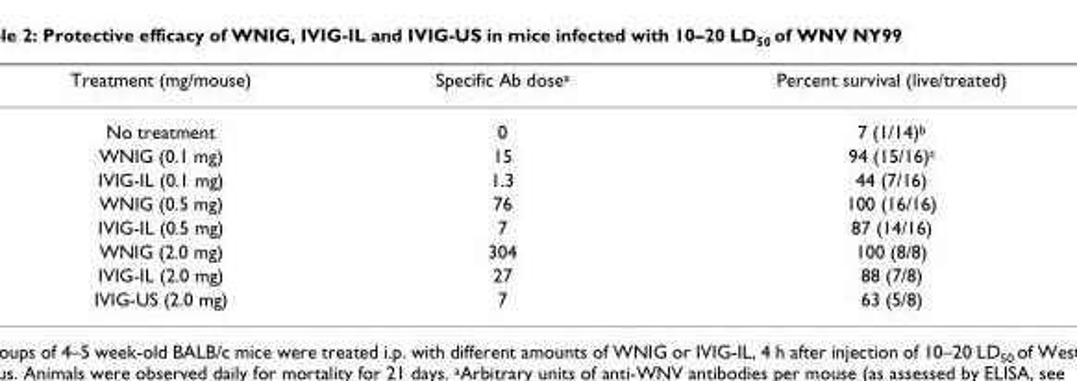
<table><thead><tr><td>Treatment (mg/mouse)</td><td>Specific Ab dose<sup>a</sup></td><td>Percent survival (live/treated)</td></tr></thead><tbody><tr><td>No treatment</td><td>0</td><td>7 (1/14)<sup>b</sup></td></tr><tr><td>WNIG (0.1 mg)</td><td>15</td><td>94 (15/16)<sup>c</sup></td></tr><tr><td>IVIG-IL (0.1 mg)</td><td>1.3</td><td>44 (7/16)</td></tr><tr><td>WNIG (0.5 mg)</td><td>76</td><td>100 (16/16)</td></tr><tr><td>IVIG-IL (0.5 mg)</td><td>7</td><td>87 (14/16)</td></tr><tr><td>WNIG (2.0 mg)</td><td>304</td><td>100 (8/8)</td></tr><tr><td>IVIG-IL (2.0 mg)</td><td>27</td><td>88 (7/8)</td></tr><tr><td>IVIG-US (2.0 mg)</td><td>7</td><td>63 (5/8)</td></tr></tbody></table>